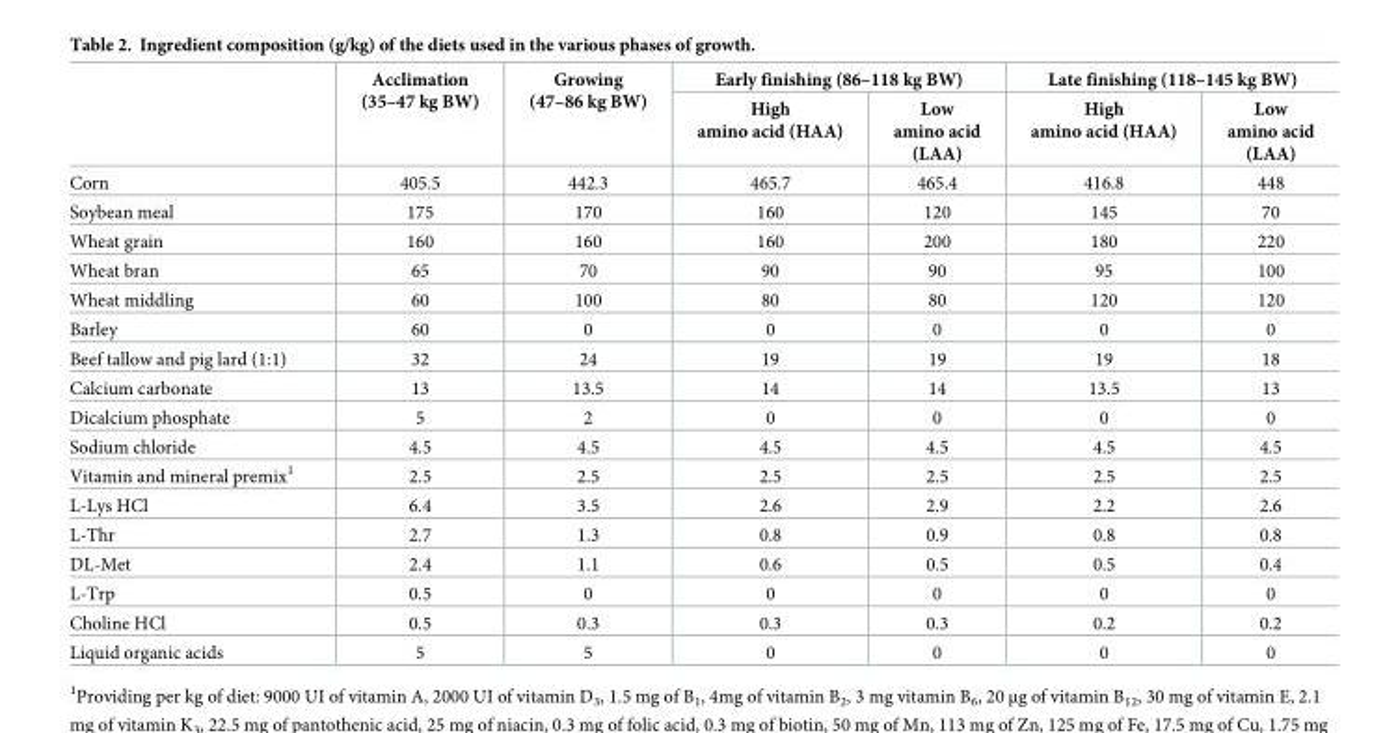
<table><thead><tr><td rowspan="2"></td><td rowspan="2">Acclimation (35–47 kg BW)</td><td rowspan="2">Growing (47–86 kg BW)</td><td colspan="2">Early finishing (86–118 kg BW)</td><td colspan="2">Late finishing (118–145 kg BW)</td></tr><tr><td>High amino acid (HAA)</td><td>Low amino acid (LAA)</td><td>High amino acid (HAA)</td><td>Low amino acid (LAA)</td></tr></thead><tbody><tr><td>Corn</td><td>405.5</td><td>442.3</td><td>465.7</td><td>465.4</td><td>416.8</td><td>448</td></tr><tr><td>Soybean meal</td><td>175</td><td>170</td><td>160</td><td>120</td><td>145</td><td>70</td></tr><tr><td>Wheat grain</td><td>160</td><td>160</td><td>160</td><td>200</td><td>180</td><td>220</td></tr><tr><td>Wheat bran</td><td>65</td><td>70</td><td>90</td><td>90</td><td>95</td><td>100</td></tr><tr><td>Wheat middling</td><td>60</td><td>100</td><td>80</td><td>80</td><td>120</td><td>120</td></tr><tr><td>Barley</td><td>60</td><td>0</td><td>0</td><td>0</td><td>0</td><td>0</td></tr><tr><td>Beef tallow and pig lard (1:1)</td><td>32</td><td>24</td><td>19</td><td>19</td><td>19</td><td>18</td></tr><tr><td>Calcium carbonate</td><td>13</td><td>13.5</td><td>14</td><td>14</td><td>13.5</td><td>13</td></tr><tr><td>Dicalcium phosphate</td><td>5</td><td>2</td><td>0</td><td>0</td><td>0</td><td>0</td></tr><tr><td>Sodium chloride</td><td>4.5</td><td>4.5</td><td>4.5</td><td>4.5</td><td>4.5</td><td>4.5</td></tr><tr><td>Vitamin and mineral premix<sup>1</sup></td><td>2.5</td><td>2.5</td><td>2.5</td><td>2.5</td><td>2.5</td><td>2.5</td></tr><tr><td>L-Lys HCl</td><td>6.4</td><td>3.5</td><td>2.6</td><td>2.9</td><td>2.2</td><td>2.6</td></tr><tr><td>L-Thr</td><td>2.7</td><td>1.3</td><td>0.8</td><td>0.9</td><td>0.8</td><td>0.8</td></tr><tr><td>DL-Met</td><td>2.4</td><td>1.1</td><td>0.6</td><td>0.5</td><td>0.5</td><td>0.4</td></tr><tr><td>L-Trp</td><td>0.5</td><td>0</td><td>0</td><td>0</td><td>0</td><td>0</td></tr><tr><td>Choline HCl</td><td>0.5</td><td>0.3</td><td>0.3</td><td>0.3</td><td>0.2</td><td>0.2</td></tr><tr><td>Liquid organic acids</td><td>5</td><td>5</td><td>0</td><td>0</td><td>0</td><td>0</td></tr></tbody></table>